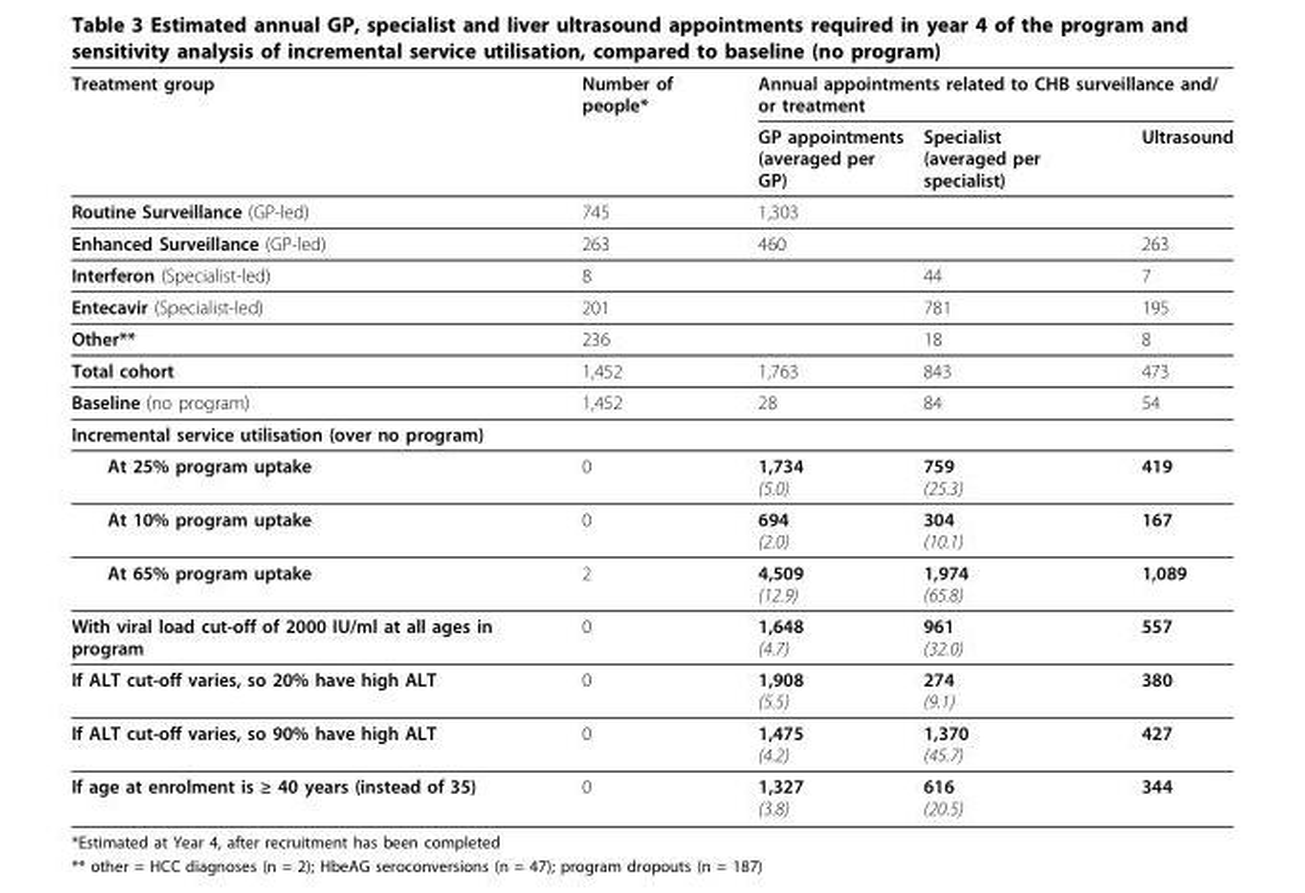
<table><thead><tr><td rowspan="2">Treatment group</td><td rowspan="2">Number of people*</td><td colspan="3">Annual appointments related to CHB surveillance and/ or treatment</td></tr><tr><td>GP appointments (averaged per GP)</td><td>Specialist (averaged per specialist)</td><td>Ultrasound</td></tr></thead><tbody><tr><td>Routine Surveillance (GP-led)</td><td>745</td><td>1,303</td><td></td><td></td></tr><tr><td>Enhanced Surveillance (GP-led)</td><td>263</td><td>460</td><td></td><td>263</td></tr><tr><td>Interferon (Specialist-led)</td><td>8</td><td></td><td>44</td><td>7</td></tr><tr><td>Entecavir (Specialist-led)</td><td>201</td><td></td><td>781</td><td>195</td></tr><tr><td>Other**</td><td>236</td><td></td><td>18</td><td>8</td></tr><tr><td>Total cohort</td><td>1,452</td><td>1,763</td><td>843</td><td>473</td></tr><tr><td>Baseline (no program)</td><td>1,452</td><td>28</td><td>84</td><td>54</td></tr><tr><td colspan="5">Incremental service utilisation (over no program)</td></tr><tr><td>At 25% program uptake</td><td>0</td><td>1,734 (5.0)</td><td>759 (25.3)</td><td>419</td></tr><tr><td>At 10% program uptake</td><td>0</td><td>694 (2.0)</td><td>304 (10.1)</td><td>167</td></tr><tr><td>At 65% program uptake</td><td>2</td><td>4,509 (12.9)</td><td>1,974 (65.8)</td><td>1,089</td></tr><tr><td>With viral load cut-off of 2000 IU/ml at all ages in program</td><td>0</td><td>1,648 (4.7)</td><td>961 (32.0)</td><td>557</td></tr><tr><td>If ALT cut-off varies, so 20% have high ALT</td><td>0</td><td>1,908 (5.5)</td><td>274 (9.1)</td><td>380</td></tr><tr><td>If ALT cut-off varies, so 90% have high ALT</td><td>0</td><td>1,475 (4.2)</td><td>1,370 (45.7)</td><td>427</td></tr><tr><td>If age at enrolment is ≥ 40 years (instead of 35)</td><td>0</td><td>1,327 (3.8)</td><td>616 (20.5)</td><td>344</td></tr></tbody></table>